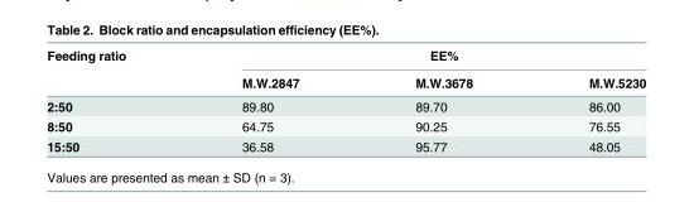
<table><thead><tr><td rowspan="2">Feeding ratio</td><td colspan="3">EE%</td></tr><tr><td>M.W.2847</td><td>M.W.3678</td><td>M.W.5230</td></tr></thead><tbody><tr><td>2:50</td><td>89.80</td><td>89.70</td><td>86.00</td></tr><tr><td>8:50</td><td>64.75</td><td>90.25</td><td>76.55</td></tr><tr><td>15:50</td><td>36.58</td><td>95.77</td><td>48.05</td></tr></tbody></table>